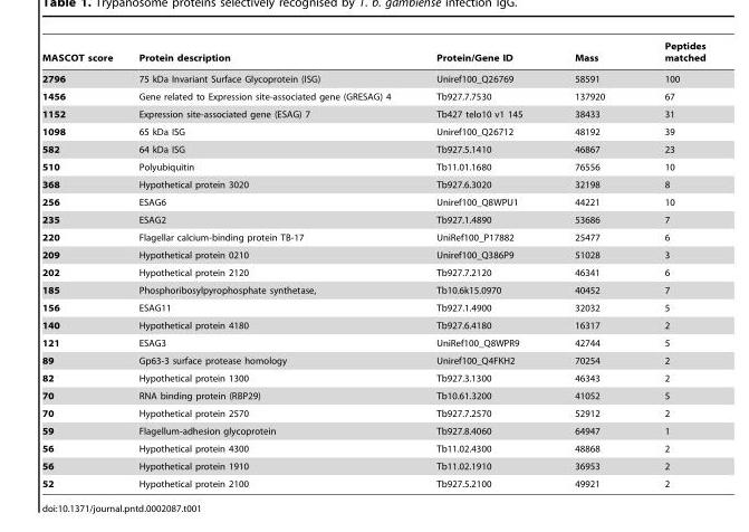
<table><thead><tr><td>MASCOT score</td><td>Protein description</td><td>Protein/Gene ID</td><td>Mass</td><td>Peptides matched</td></tr></thead><tbody><tr><td>2796</td><td>75 kDa Invariant Surface Glycoprotein (ISG)</td><td>Uniref100_Q26769</td><td>58591</td><td>100</td></tr><tr><td>1456</td><td>Gene related to Expression site-associated gene (GRESAG) 4</td><td>Tb927.7.7530</td><td>137920</td><td>67</td></tr><tr><td>1152</td><td>Expression site-associated gene (ESAG) 7</td><td>Tb427 telo10 v1 145</td><td>38433</td><td>31</td></tr><tr><td>1098</td><td>65 kDa ISG</td><td>Uniref100_Q26712</td><td>48192</td><td>39</td></tr><tr><td>582</td><td>64 kDa ISG</td><td>Tb927.5.1410</td><td>46867</td><td>23</td></tr><tr><td>510</td><td>Polyubiquitin</td><td>Tb11.01.1680</td><td>76556</td><td>10</td></tr><tr><td>368</td><td>Hypothetical protein 3020</td><td>Tb927.6.3020</td><td>32198</td><td>8</td></tr><tr><td>256</td><td>ESAG6</td><td>Uniref100_Q8WPU1</td><td>44221</td><td>10</td></tr><tr><td>235</td><td>ESAG2</td><td>Tb927.1.4890</td><td>53686</td><td>7</td></tr><tr><td>220</td><td>Flagellar calcium-binding protein TB-17</td><td>UniRef100_P17882</td><td>25477</td><td>6</td></tr><tr><td>209</td><td>Hypothetical protein 0210</td><td>Uniref100_Q386P9</td><td>51028</td><td>3</td></tr><tr><td>202</td><td>Hypothetical protein 2120</td><td>Tb927.7.2120</td><td>46341</td><td>6</td></tr><tr><td>185</td><td>Phosphoribosylpyrophosphate synthetase,</td><td>Tb10.6k15.0970</td><td>40452</td><td>7</td></tr><tr><td>156</td><td>ESAG11</td><td>Tb927.1.4900</td><td>32032</td><td>5</td></tr><tr><td>140</td><td>Hypothetical protein 4180</td><td>Tb927.6.4180</td><td>16317</td><td>2</td></tr><tr><td>121</td><td>ESAG3</td><td>UniRef100_Q8WPR9</td><td>42744</td><td>5</td></tr><tr><td>89</td><td>Gp63-3 surface protease homology</td><td>Uniref100_Q4FKH2</td><td>70254</td><td>2</td></tr><tr><td>82</td><td>Hypothetical protein 1300</td><td>Tb927.3.1300</td><td>46343</td><td>2</td></tr><tr><td>70</td><td>RNA binding protein (RBP29)</td><td>Tb10.61.3200</td><td>41052</td><td>5</td></tr><tr><td>70</td><td>Hypothetical protein 2570</td><td>Tb927.7.2570</td><td>52912</td><td>2</td></tr><tr><td>59</td><td>Flagellum-adhesion glycoprotein</td><td>Tb927.8.4060</td><td>64947</td><td>1</td></tr><tr><td>56</td><td>Hypothetical protein 4300</td><td>Tb11.02.4300</td><td>48868</td><td>2</td></tr><tr><td>56</td><td>Hypothetical protein 1910</td><td>Tb11.02.1910</td><td>36953</td><td>2</td></tr><tr><td>52</td><td>Hypothetical protein 2100</td><td>Tb927.5.2100</td><td>49921</td><td>2</td></tr></tbody></table>